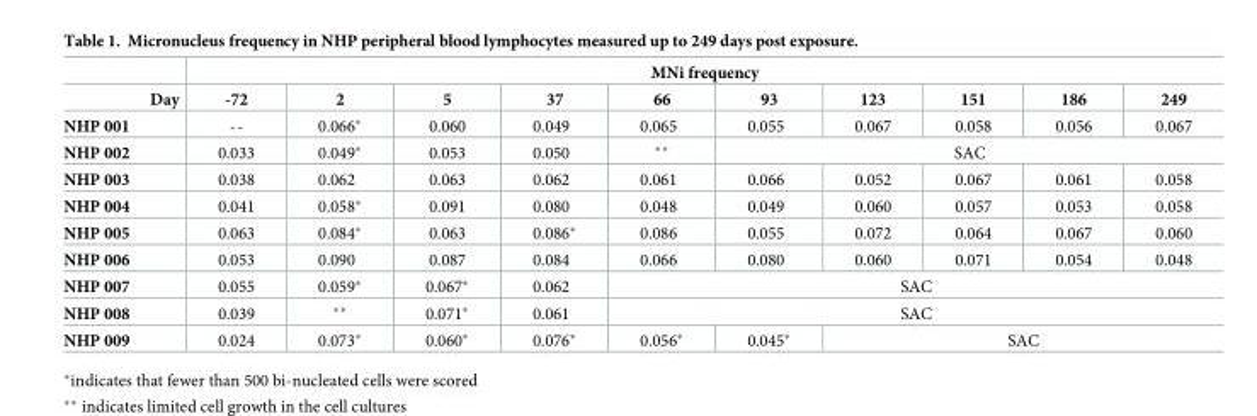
<table><thead><tr><td rowspan="2">Day</td><td colspan="10">MNi frequency</td></tr><tr><td>-72</td><td>2</td><td>5</td><td>37</td><td>66</td><td>93</td><td>123</td><td>151</td><td>186</td><td>249</td></tr></thead><tbody><tr><td>NHP 001</td><td>--</td><td>0.066*</td><td>0.060</td><td>0.049</td><td>0.065</td><td>0.055</td><td>0.067</td><td>0.058</td><td>0.056</td><td>0.067</td></tr><tr><td>NHP 002</td><td>0.033</td><td>0.049*</td><td>0.053</td><td>0.050</td><td>**</td><td colspan="5">SAC</td></tr><tr><td>NHP 003</td><td>0.038</td><td>0.062</td><td>0.063</td><td>0.062</td><td>0.061</td><td>0.066</td><td>0.052</td><td>0.067</td><td>0.061</td><td>0.058</td></tr><tr><td>NHP 004</td><td>0.041</td><td>0.058*</td><td>0.091</td><td>0.080</td><td>0.048</td><td>0.049</td><td>0.060</td><td>0.057</td><td>0.053</td><td>0.058</td></tr><tr><td>NHP 005</td><td>0.063</td><td>0.084*</td><td>0.063</td><td>0.086*</td><td>0.086</td><td>0.055</td><td>0.072</td><td>0.064</td><td>0.067</td><td>0.060</td></tr><tr><td>NHP 006</td><td>0.053</td><td>0.090</td><td>0.087</td><td>0.084</td><td>0.066</td><td>0.080</td><td>0.060</td><td>0.071</td><td>0.054</td><td>0.048</td></tr><tr><td>NHP 007</td><td>0.055</td><td>0.059*</td><td>0.067*</td><td>0.062</td><td colspan="6">SAC</td></tr><tr><td>NHP 008</td><td>0.039</td><td>**</td><td>0.071*</td><td>0.061</td><td colspan="6">SAC</td></tr><tr><td>NHP 009</td><td>0.024</td><td>0.073*</td><td>0.060*</td><td>0.076*</td><td>0.056*</td><td>0.045*</td><td colspan="4">SAC</td></tr></tbody></table>